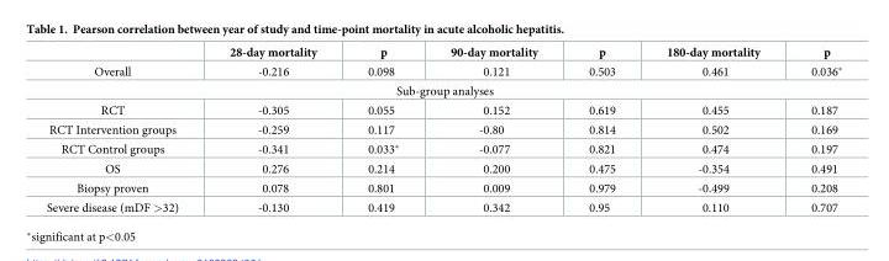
<table><thead><tr><td></td><td>28-day mortality</td><td>p</td><td>90-day mortality</td><td>p</td><td>180-day mortality</td><td>p</td></tr></thead><tbody><tr><td>Overall</td><td>-0.216</td><td>0.098</td><td>0.121</td><td>0.503</td><td>0.461</td><td>0.036*</td></tr><tr><td colspan="7">Sub-group analyses</td></tr><tr><td>RCT</td><td>-0.305</td><td>0.055</td><td>0.152</td><td>0.619</td><td>0.455</td><td>0.187</td></tr><tr><td>RCT Intervention groups</td><td>-0.259</td><td>0.117</td><td>-0.80</td><td>0.814</td><td>0.502</td><td>0.169</td></tr><tr><td>RCT Control groups</td><td>-0.341</td><td>0.033*</td><td>-0.077</td><td>0.821</td><td>0.474</td><td>0.197</td></tr><tr><td>OS</td><td>0.276</td><td>0.214</td><td>0.200</td><td>0.475</td><td>-0.354</td><td>0.491</td></tr><tr><td>Biopsy proven</td><td>0.078</td><td>0.801</td><td>0.009</td><td>0.979</td><td>-0.499</td><td>0.208</td></tr><tr><td>Severe disease (mDF &gt;32)</td><td>-0.130</td><td>0.419</td><td>0.342</td><td>0.95</td><td>0.110</td><td>0.707</td></tr></tbody></table>